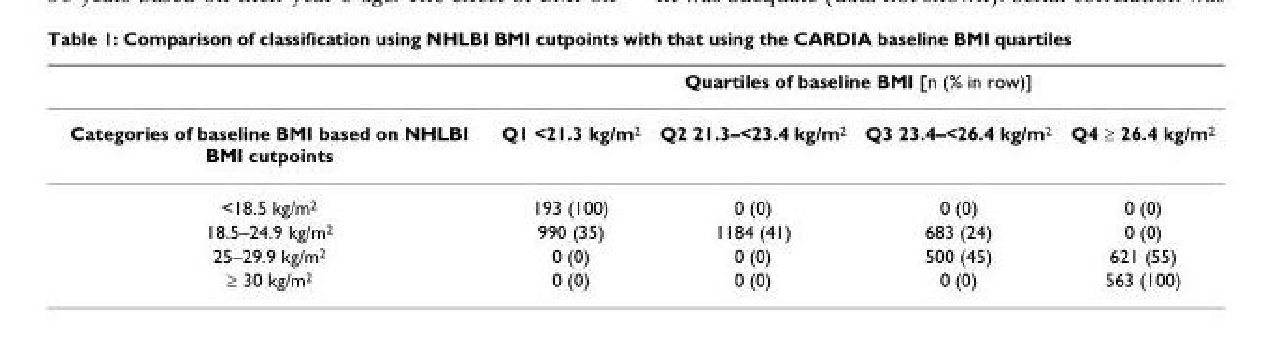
<table><thead><tr><td rowspan="2">Categories of baseline BMI based on NHLBI BMI cutpoints</td><td colspan="4">Quartiles of baseline BMI [n (% in row)]</td></tr><tr><td>Q1 &lt;21.3 kg/m<sup>2</sup></td><td>Q2 21.3–&lt;23.4 kg/m<sup>2</sup></td><td>Q3 23.4–&lt;26.4 kg/m<sup>2</sup></td><td>Q4 ≥ 26.4 kg/m<sup>2</sup></td></tr></thead><tbody><tr><td>&lt;18.5 kg/m<sup>2</sup></td><td>193 (100)</td><td>0 (0)</td><td>0 (0)</td><td>0 (0)</td></tr><tr><td>18.5–24.9 kg/m<sup>2</sup></td><td>990 (35)</td><td>1184 (41)</td><td>683 (24)</td><td>0 (0)</td></tr><tr><td>25–29.9 kg/m<sup>2</sup></td><td>0 (0)</td><td>0 (0)</td><td>500 (45)</td><td>621 (55)</td></tr><tr><td>≥ 30 kg/m<sup>2</sup></td><td>0 (0)</td><td>0 (0)</td><td>0 (0)</td><td>563 (100)</td></tr></tbody></table>